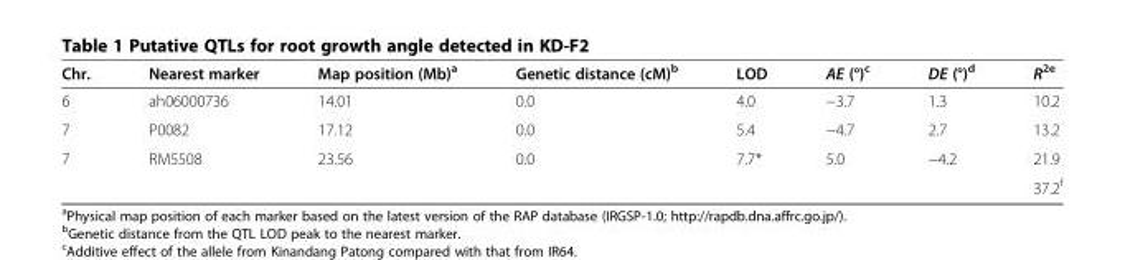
<table><thead><tr><td>Chr.</td><td>Nearest marker</td><td>Map position (Mb)<sup>a</sup></td><td>Genetic distance (cM)<sup>b</sup></td><td>LOD</td><td>AE (°)<sup>c</sup></td><td>DE (°)<sup>d</sup></td><td>R<sup>2e</sup></td></tr></thead><tbody><tr><td>6</td><td>ah06000736</td><td>14.01</td><td>0.0</td><td>4.0</td><td>−3.7</td><td>1.3</td><td>10.2</td></tr><tr><td>7</td><td>P0082</td><td>17.12</td><td>0.0</td><td>5.4</td><td>−4.7</td><td>2.7</td><td>13.2</td></tr><tr><td rowspan="2">7</td><td>RM5508</td><td>23.56</td><td>0.0</td><td>7.7*</td><td>5.0</td><td>−4.2</td><td>21.9</td></tr><tr><td></td><td></td><td></td><td></td><td></td><td></td><td>37.2<sup>f</sup></td></tr></tbody></table>